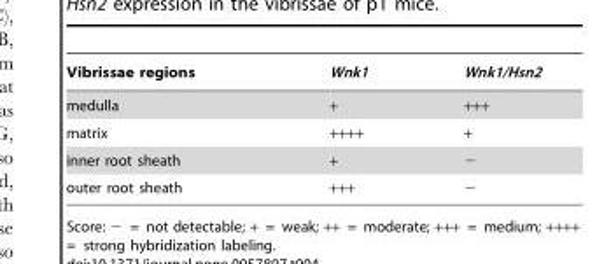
<table><thead><tr><td>Vibrissae regions</td><td>Wnk1</td><td>Wnk1/Hsn2</td></tr></thead><tbody><tr><td>medulla</td><td>+</td><td>+++</td></tr><tr><td>matrix</td><td>++++</td><td>+</td></tr><tr><td>inner root sheath</td><td>+</td><td>−</td></tr><tr><td>outer root sheath</td><td>+++</td><td>−</td></tr></tbody></table>